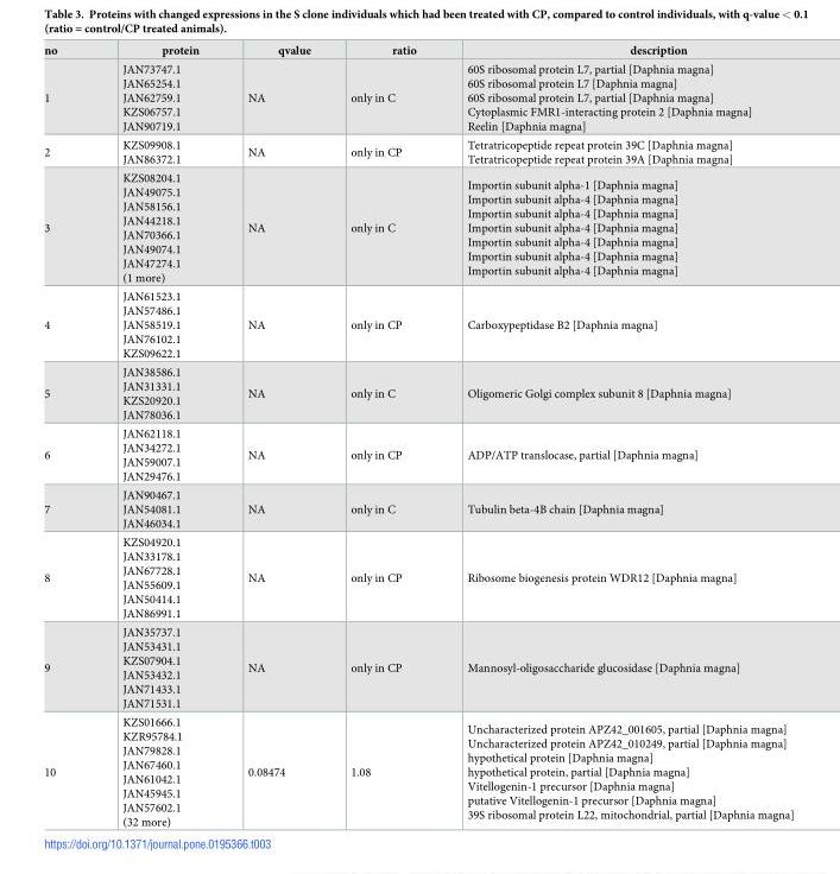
<table><thead><tr><td>no</td><td>protein</td><td>qvalue</td><td>ratio</td><td>description</td></tr></thead><tbody><tr><td>1</td><td>JAN73747.1 JAN65254.1 JAN62759.1 KZS06757.1 JAN90719.1</td><td>NA</td><td>only in C</td><td>60S ribosomal protein L7, partial [Daphnia magna] 60S ribosomal protein L7 [Daphnia magna] 60S ribosomal protein L7, partial [Daphnia magna] Cytoplasmic FMR1-interacting protein 2 [Daphnia magna] Reelin [Daphnia magna]</td></tr><tr><td>2</td><td>KZS09908.1 JAN86372.1</td><td>NA</td><td>only in CP</td><td>Tetratricopeptide repeat protein 39C [Daphnia magna] Tetratricopeptide repeat protein 39A [Daphnia magna]</td></tr><tr><td>3</td><td>KZS08204.1 JAN49075.1 JAN58156.1 JAN44218.1 JAN70366.1 JAN49074.1 JAN47274.1 (1 more)</td><td>NA</td><td>only in C</td><td>Importin subunit alpha-1 [Daphnia magna] Importin subunit alpha-4 [Daphnia magna] Importin subunit alpha-4 [Daphnia magna] Importin subunit alpha-4 [Daphnia magna] Importin subunit alpha-4 [Daphnia magna] Importin subunit alpha-4 [Daphnia magna] Importin subunit alpha-4 [Daphnia magna]</td></tr><tr><td>4</td><td>JAN61523.1 JAN57486.1 JAN58519.1 JAN76102.1 KZS09622.1</td><td>NA</td><td>only in CP</td><td>Carboxypeptidase B2 [Daphnia magna]</td></tr><tr><td>5</td><td>JAN38586.1 JAN31331.1 KZS20920.1 JAN78036.1</td><td>NA</td><td>only in C</td><td>Oligomeric Golgi complex subunit 8 [Daphnia magna]</td></tr><tr><td>6</td><td>JAN62118.1 JAN34272.1 JAN59007.1 JAN29476.1</td><td>NA</td><td>only in CP</td><td>ADP/ATP translocase, partial [Daphnia magna]</td></tr><tr><td>7</td><td>JAN90467.1 JAN54081.1 JAN46034.1</td><td>NA</td><td>only in C</td><td>Tubulin beta-4B chain [Daphnia magna]</td></tr><tr><td>8</td><td>KZS04920.1 JAN33178.1 JAN67728.1 JAN55609.1 JAN50414.1 JAN86991.1</td><td>NA</td><td>only in CP</td><td>Ribosome biogenesis protein WDR12 [Daphnia magna]</td></tr><tr><td>9</td><td>JAN35737.1 JAN53431.1 KZS07904.1 JAN53432.1 JAN71433.1 JAN71531.1</td><td>NA</td><td>only in CP</td><td>Mannosyl-oligosaccharide glucosidase [Daphnia magna]</td></tr><tr><td>10</td><td>KZS01666.1 KZR95784.1 JAN79828.1 JAN67460.1 JAN61042.1 JAN45945.1 JAN57602.1 (32 more)</td><td>0.08474</td><td>1.08</td><td>Uncharacterized protein APZ42_001605, partial [Daphnia magna] Uncharacterized protein APZ42_010249, partial [Daphnia magna] hypothetical protein [Daphnia magna] hypothetical protein, partial [Daphnia magna] Vitellogenin-1 precursor [Daphnia magna] putative Vitellogenin-1 precursor [Daphnia magna] 39S ribosomal protein L22, mitochondrial, partial [Daphnia magna]</td></tr></tbody></table>